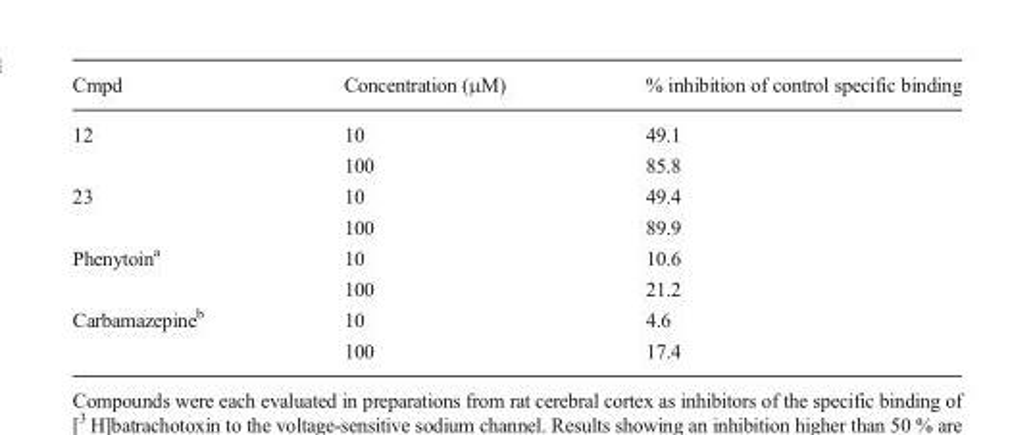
<table><thead><tr><td>Cmpd</td><td>Concentration (μM)</td><td>% inhibition of control specific binding</td></tr></thead><tbody><tr><td rowspan="2">12</td><td>10</td><td>49.1</td></tr><tr><td>100</td><td>85.8</td></tr><tr><td rowspan="2">23</td><td>10</td><td>49.4</td></tr><tr><td>100</td><td>89.9</td></tr><tr><td rowspan="2">Phenytoin<sup>a</sup></td><td>10</td><td>10.6</td></tr><tr><td>100</td><td>21.2</td></tr><tr><td rowspan="2">Carbamazepine<sup>b</sup></td><td>10</td><td>4.6</td></tr><tr><td>100</td><td>17.4</td></tr></tbody></table>